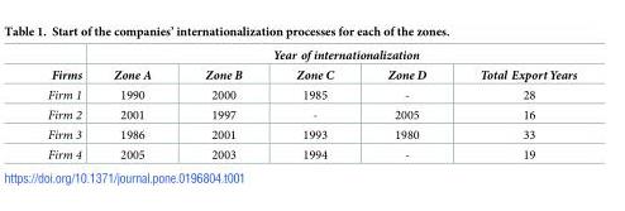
<table><thead><tr><td rowspan="2">Firms</td><td colspan="5">Year of internationalization</td></tr><tr><td>Zone A</td><td>Zone B</td><td>Zone C</td><td>Zone D</td><td>Total Export Years</td></tr></thead><tbody><tr><td>Firm 1</td><td>1990</td><td>2000</td><td>1985</td><td>-</td><td>28</td></tr><tr><td>Firm 2</td><td>2001</td><td>1997</td><td>-</td><td>2005</td><td>16</td></tr><tr><td>Firm 3</td><td>1986</td><td>2001</td><td>1993</td><td>1980</td><td>33</td></tr><tr><td>Firm 4</td><td>2005</td><td>2003</td><td>1994</td><td>-</td><td>19</td></tr></tbody></table>